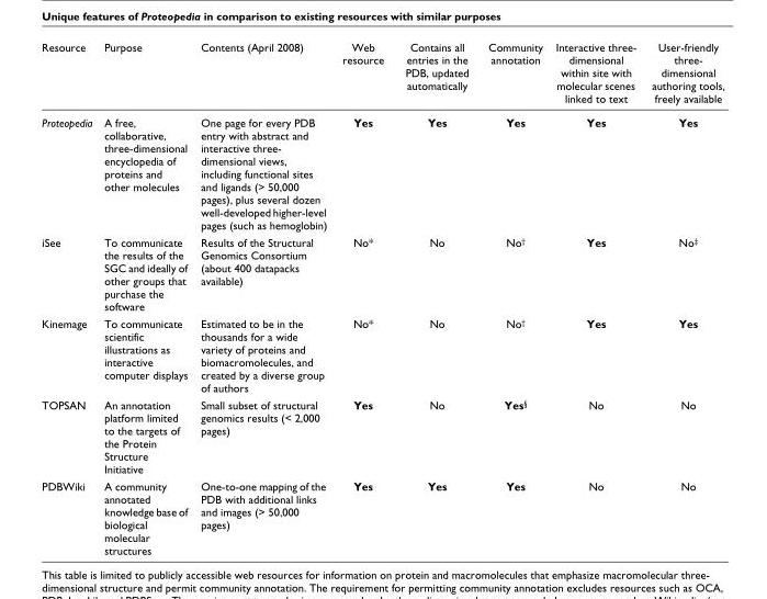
<table><thead><tr><td>Resource</td><td>Purpose</td><td>Contents (April 2008)</td><td>Web resource</td><td>Contains all entries in the PDB, updated automatically</td><td>Community annotation</td><td>Interactive three- dimensional within site with molecular scenes linked to text</td><td>User-friendly three- dimensional authoring tools, freely available</td></tr></thead><tbody><tr><td>Proteopedia</td><td>A free, collaborative, three-dimensional encyclopedia of proteins and other molecules</td><td>One page for every PDB entry with abstract and interactive three- dimensional views, including functional sites and ligands (&gt; 50,000 pages), plus several dozen well-developed higher-level pages (such as hemoglobin)</td><td>Yes</td><td>Yes</td><td>Yes</td><td>Yes</td><td>Yes</td></tr><tr><td>iSee</td><td>To communicate the results of the SGC and ideally of other groups that purchase the software</td><td>Results of the Structural Genomics Consortium (about 400 datapacks available)</td><td>No*</td><td>No</td><td>No<sup>†</sup></td><td>Yes</td><td>No<sup>‡</sup></td></tr><tr><td>Kinemage</td><td>To communicate scientific illustrations as interactive computer displays</td><td>Estimated to be in the thousands for a wide variety of proteins and biomacromolecules, and created by a diverse group of authors</td><td>No*</td><td>No</td><td>No<sup>†</sup></td><td>Yes</td><td>Yes</td></tr><tr><td>TOPSAN</td><td>An annotation platform limited to the targets of the Protein Structure Initiative</td><td>Small subset of structural genomics results (&lt; 2,000 pages)</td><td>Yes</td><td>No</td><td>Yes<sup>§</sup></td><td>No</td><td>No</td></tr><tr><td>PDBWiki</td><td>A community annotated knowledge base of biological molecular structures</td><td>One-to-one mapping of the PDB with additional links and images (&gt; 50,000 pages)</td><td>Yes</td><td>Yes</td><td>Yes</td><td>No</td><td>No</td></tr></tbody></table>